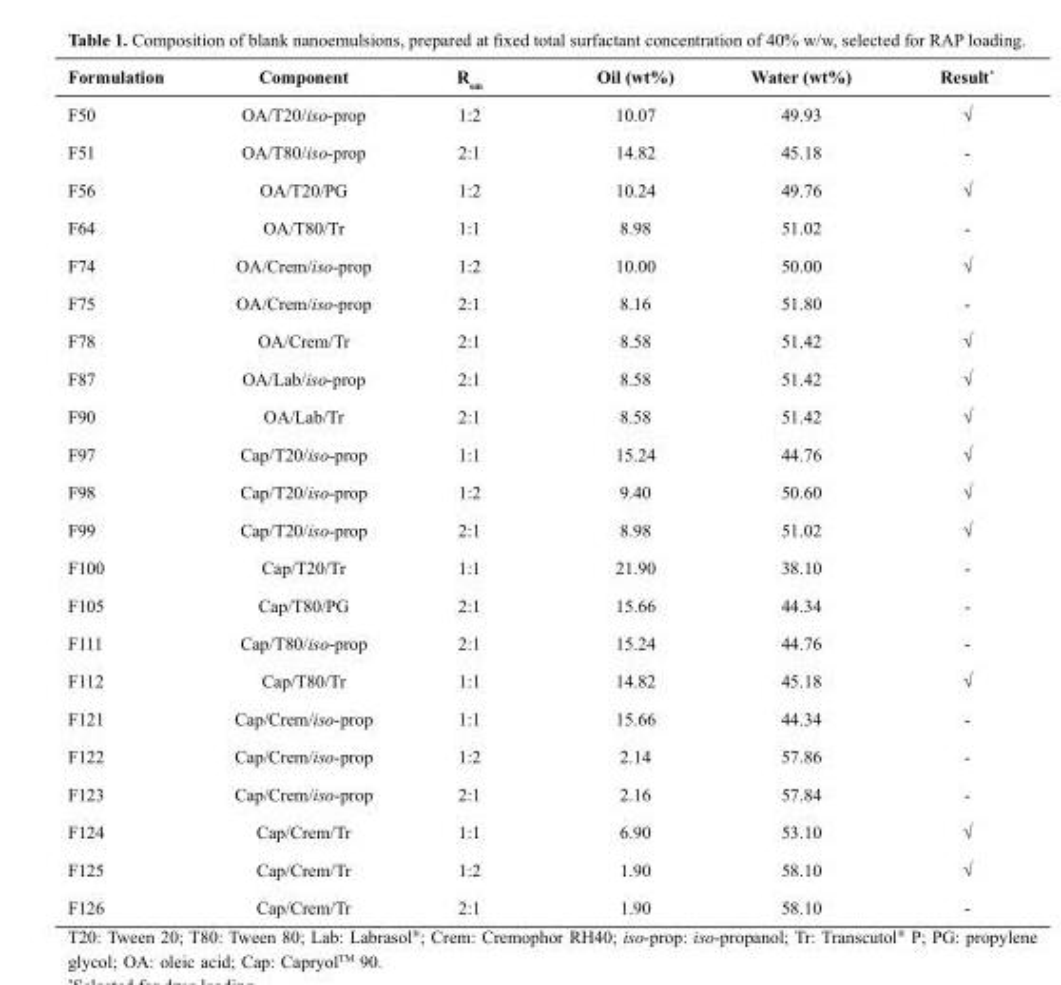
<table><thead><tr><td>Formulation</td><td>Component</td><td>R<sub>sm</sub></td><td>Oil (wt%)</td><td>Water (wt%)</td><td>Result*</td></tr></thead><tbody><tr><td>F50</td><td>OA/T20/iso-prop</td><td>1:2</td><td>10.07</td><td>49.93</td><td>√</td></tr><tr><td>F51</td><td>OA/T80/iso-prop</td><td>2:1</td><td>14.82</td><td>45.18</td><td>-</td></tr><tr><td>F56</td><td>OA/T20/PG</td><td>1:2</td><td>10.24</td><td>49.76</td><td>√</td></tr><tr><td>F64</td><td>OA/T80/Tr</td><td>1:1</td><td>8.98</td><td>51.02</td><td>-</td></tr><tr><td>F74</td><td>OA/Crem/iso-prop</td><td>1:2</td><td>10.00</td><td>50.00</td><td>√</td></tr><tr><td>F75</td><td>OA/Crem/iso-prop</td><td>2:1</td><td>8.16</td><td>51.80</td><td>-</td></tr><tr><td>F78</td><td>OA/Crem/Tr</td><td>2:1</td><td>8.58</td><td>51.42</td><td>√</td></tr><tr><td>F87</td><td>OA/Lab/iso-prop</td><td>2:1</td><td>8.58</td><td>51.42</td><td>√</td></tr><tr><td>F90</td><td>OA/Lab/Tr</td><td>2:1</td><td>8.58</td><td>51.42</td><td>√</td></tr><tr><td>F97</td><td>Cap/T20/iso-prop</td><td>1:1</td><td>15.24</td><td>44.76</td><td>√</td></tr><tr><td>F98</td><td>Cap/T20/iso-prop</td><td>1:2</td><td>9.40</td><td>50.60</td><td>√</td></tr><tr><td>F99</td><td>Cap/T20/iso-prop</td><td>2:1</td><td>8.98</td><td>51.02</td><td>√</td></tr><tr><td>F100</td><td>Cap/T20/Tr</td><td>1:1</td><td>21.90</td><td>38.10</td><td>-</td></tr><tr><td>F105</td><td>Cap/T80/PG</td><td>2:1</td><td>15.66</td><td>44.34</td><td>-</td></tr><tr><td>F111</td><td>Cap/T80/iso-prop</td><td>2:1</td><td>15.24</td><td>44.76</td><td>-</td></tr><tr><td>F112</td><td>Cap/T80/Tr</td><td>1:1</td><td>14.82</td><td>45.18</td><td>√</td></tr><tr><td>F121</td><td>Cap/Crem/iso-prop</td><td>1:1</td><td>15.66</td><td>44.34</td><td>-</td></tr><tr><td>F122</td><td>Cap/Crem/iso-prop</td><td>1:2</td><td>2.14</td><td>57.86</td><td>-</td></tr><tr><td>F123</td><td>Cap/Crem/iso-prop</td><td>2:1</td><td>2.16</td><td>57.84</td><td>-</td></tr><tr><td>F124</td><td>Cap/Crem/Tr</td><td>1:1</td><td>6.90</td><td>53.10</td><td>√</td></tr><tr><td>F125</td><td>Cap/Crem/Tr</td><td>1:2</td><td>1.90</td><td>58.10</td><td>√</td></tr><tr><td>F126</td><td>Cap/Crem/Tr</td><td>2:1</td><td>1.90</td><td>58.10</td><td>-</td></tr></tbody></table>